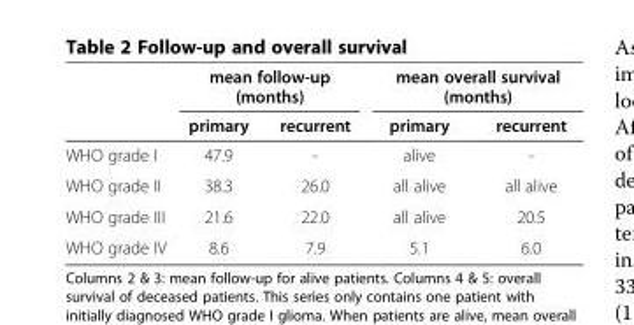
<table><thead><tr><td rowspan="2"></td><td colspan="2">mean follow-up (months)</td><td colspan="2">mean overall survival (months)</td></tr><tr><td>primary</td><td>recurrent</td><td>primary</td><td>recurrent</td></tr></thead><tbody><tr><td>WHO grade I</td><td>47.9</td><td>-</td><td>alive</td><td>-</td></tr><tr><td>WHO grade II</td><td>38.3</td><td>26.0</td><td>all alive</td><td>all alive</td></tr><tr><td>WHO grade III</td><td>21.6</td><td>22.0</td><td>all alive</td><td>20.5</td></tr><tr><td>WHO grade IV</td><td>8.6</td><td>7.9</td><td>5.1</td><td>6.0</td></tr></tbody></table>